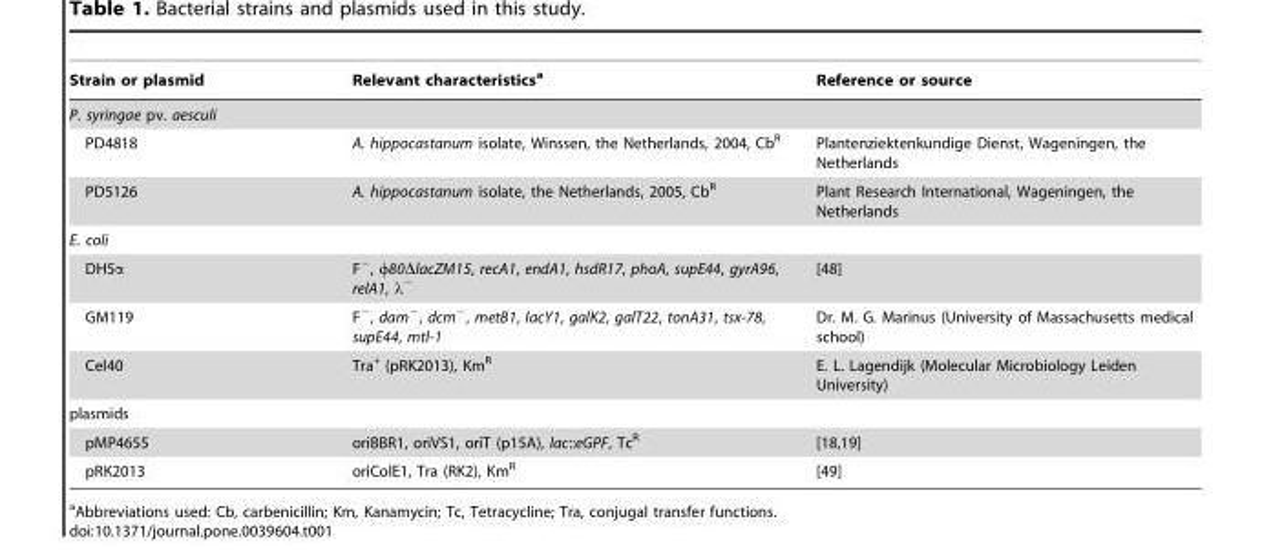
<table><thead><tr><td>Strain or plasmid</td><td>Relevant characteristics<sup>a</sup></td><td>Reference or source</td></tr></thead><tbody><tr><td colspan="3">P. syringae pv. aesculi</td></tr><tr><td>PD4818</td><td>A. hippocastanum isolate, Winssen, the Netherlands, 2004, Cb<sup>R</sup></td><td>Plantenziektenkundige Dienst, Wageningen, the Netherlands</td></tr><tr><td>PD5126</td><td>A. hippocastanum isolate, the Netherlands, 2005, Cb<sup>R</sup></td><td>Plant Research International, Wageningen, the Netherlands</td></tr><tr><td colspan="3">E. coli</td></tr><tr><td>DH5α</td><td>F<sup>−</sup>, φ80ΔlacZM15, recA1, endA1, hsdR17, phoA, supE44, gyrA96, relA1, λ<sup>−</sup></td><td>[48]</td></tr><tr><td>GM119</td><td>F<sup>−</sup>, dam<sup>−</sup>, dcm<sup>−</sup>, metB1, lacY1, galK2, galT22, tonA31, tsx-78, supE44, mtl-1</td><td>Dr. M. G. Marinus (University of Massachusetts medical school)</td></tr><tr><td>Cel40</td><td>Tra<sup>+</sup> (pRK2013), Km<sup>R</sup></td><td>E. L. Lagendijk (Molecular Microbiology Leiden University)</td></tr><tr><td colspan="3">plasmids</td></tr><tr><td>pMP4655</td><td>oriBBR1, oriVS1, oriT (p15A), lac::eGPF, Tc<sup>R</sup></td><td>[18,19]</td></tr><tr><td>pRK2013</td><td>oriColE1, Tra (RK2), Km<sup>R</sup></td><td>[49]</td></tr></tbody></table>